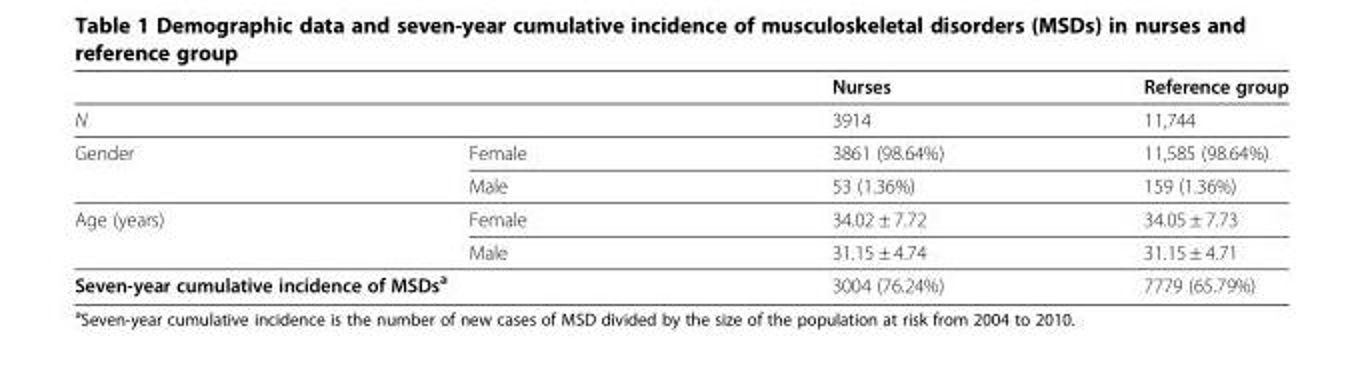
<table><thead><tr><td></td><td></td><td>Nurses</td><td>Reference group</td></tr></thead><tbody><tr><td>N</td><td></td><td>3914</td><td>11,744</td></tr><tr><td rowspan="2">Gender</td><td>Female</td><td>3861 (98.64%)</td><td>11,585 (98.64%)</td></tr><tr><td>Male</td><td>53 (1.36%)</td><td>159 (1.36%)</td></tr><tr><td rowspan="2">Age (years)</td><td>Female</td><td>34.02 ± 7.72</td><td>34.05 ± 7.73</td></tr><tr><td>Male</td><td>31.15 ± 4.74</td><td>31.15 ± 4.71</td></tr><tr><td colspan="2">Seven-year cumulative incidence of MSDs<sup>a</sup></td><td>3004 (76.24%)</td><td>7779 (65.79%)</td></tr></tbody></table>